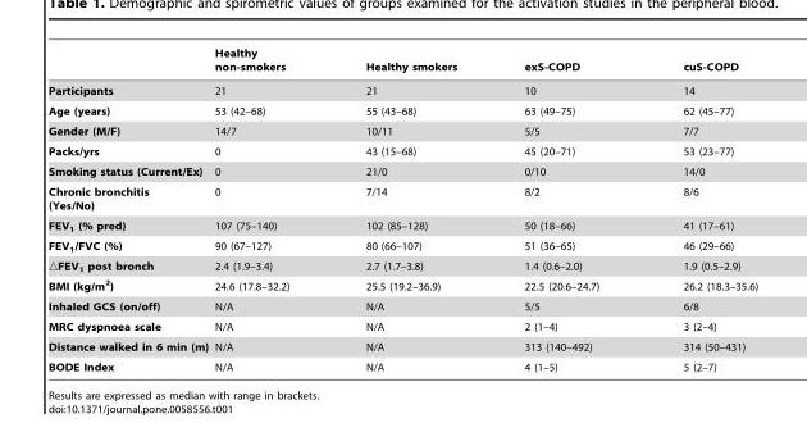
<table><thead><tr><td></td><td>Healthy non-smokers</td><td>Healthy smokers</td><td>exS-COPD</td><td>cuS-COPD</td></tr></thead><tbody><tr><td>Participants</td><td>21</td><td>21</td><td>10</td><td>14</td></tr><tr><td>Age (years)</td><td>53 (42–68)</td><td>55 (43–68)</td><td>63 (49–75)</td><td>62 (45–77)</td></tr><tr><td>Gender (M/F)</td><td>14/7</td><td>10/11</td><td>5/5</td><td>7/7</td></tr><tr><td>Packs/yrs</td><td>0</td><td>43 (15–68)</td><td>45 (20–71)</td><td>53 (23–77)</td></tr><tr><td>Smoking status (Current/Ex)</td><td>0</td><td>21/0</td><td>0/10</td><td>14/0</td></tr><tr><td>Chronic bronchitis (Yes/No)</td><td>0</td><td>7/14</td><td>8/2</td><td>8/6</td></tr><tr><td>FEV<sub>1</sub> (% pred)</td><td>107 (75–140)</td><td>102 (85–128)</td><td>50 (18–66)</td><td>41 (17–61)</td></tr><tr><td>FEV<sub>1</sub>/FVC (%)</td><td>90 (67–127)</td><td>80 (66–107)</td><td>51 (36–65)</td><td>46 (29–66)</td></tr><tr><td>▵FEV<sub>1</sub> post bronch</td><td>2.4 (1.9–3.4)</td><td>2.7 (1.7–3.8)</td><td>1.4 (0.6–2.0)</td><td>1.9 (0.5–2.9)</td></tr><tr><td>BMI (kg/m<sup>2</sup>)</td><td>24.6 (17.8–32.2)</td><td>25.5 (19.2–36.9)</td><td>22.5 (20.6–24.7)</td><td>26.2 (18.3–35.6)</td></tr><tr><td>Inhaled GCS (on/off)</td><td>N/A</td><td>N/A</td><td>5/5</td><td>6/8</td></tr><tr><td>MRC dyspnoea scale</td><td>N/A</td><td>N/A</td><td>2 (1–4)</td><td>3 (2–4)</td></tr><tr><td>Distance walked in 6 min (m)</td><td>N/A</td><td>N/A</td><td>313 (140–492)</td><td>314 (50–431)</td></tr><tr><td>BODE Index</td><td>N/A</td><td>N/A</td><td>4 (1–5)</td><td>5 (2–7)</td></tr></tbody></table>